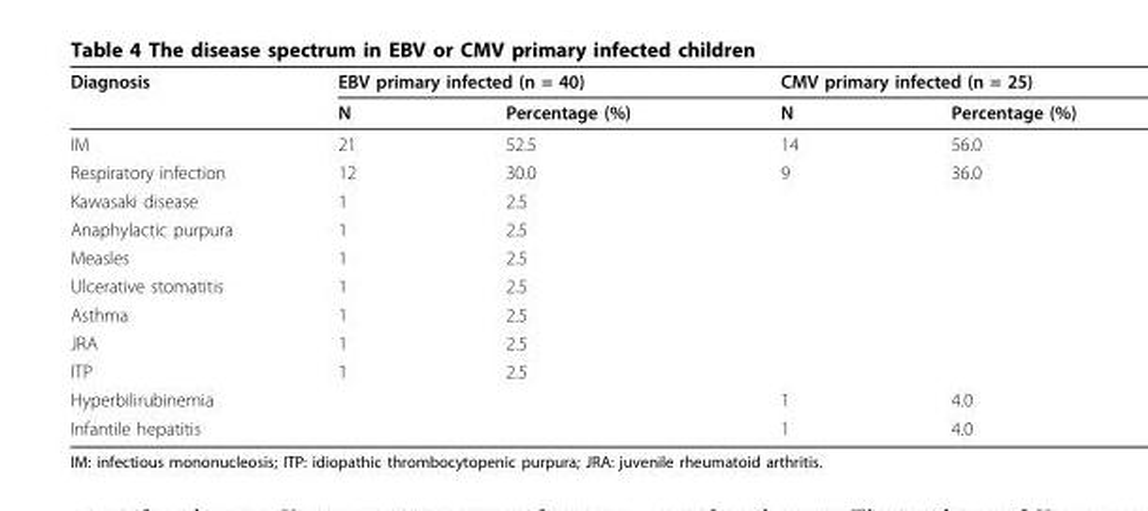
<table><thead><tr><td rowspan="2">Diagnosis</td><td colspan="2">EBV primary infected (n = 40)</td><td colspan="2">CMV primary infected (n = 25)</td></tr><tr><td>N</td><td>Percentage (%)</td><td>N</td><td>Percentage (%)</td></tr></thead><tbody><tr><td>IM</td><td>21</td><td>52.5</td><td>14</td><td>56.0</td></tr><tr><td>Respiratory infection</td><td>12</td><td>30.0</td><td>9</td><td>36.0</td></tr><tr><td>Kawasaki disease</td><td>1</td><td>2.5</td><td></td><td></td></tr><tr><td>Anaphylactic purpura</td><td>1</td><td>2.5</td><td></td><td></td></tr><tr><td>Measles</td><td>1</td><td>2.5</td><td></td><td></td></tr><tr><td>Ulcerative stomatitis</td><td>1</td><td>2.5</td><td></td><td></td></tr><tr><td>Asthma</td><td>1</td><td>2.5</td><td></td><td></td></tr><tr><td>JRA</td><td>1</td><td>2.5</td><td></td><td></td></tr><tr><td>ITP</td><td>1</td><td>2.5</td><td></td><td></td></tr><tr><td>Hyperbilirubinemia</td><td></td><td></td><td>1</td><td>4.0</td></tr><tr><td>Infantile hepatitis</td><td></td><td></td><td>1</td><td>4.0</td></tr></tbody></table>